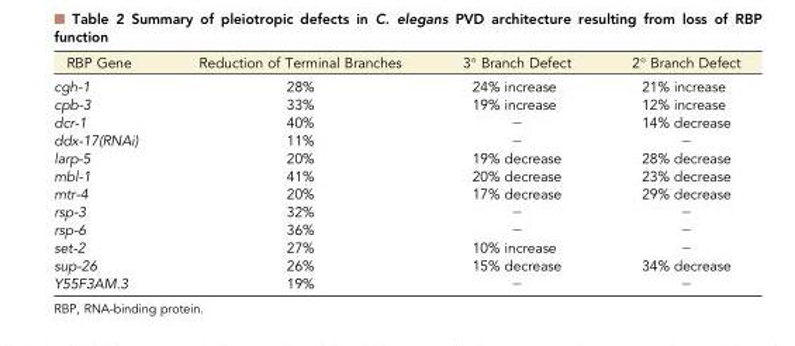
<table><thead><tr><td>RBP Gene</td><td>Reduction of Terminal Branches</td><td>3° Branch Defect</td><td>2° Branch Defect</td></tr></thead><tbody><tr><td>cgh-1</td><td>28%</td><td>24% increase</td><td>21% increase</td></tr><tr><td>cpb-3</td><td>33%</td><td>19% increase</td><td>12% increase</td></tr><tr><td>dcr-1</td><td>40%</td><td>−</td><td>14% decrease</td></tr><tr><td>ddx-17(RNAi)</td><td>11%</td><td>−</td><td>−</td></tr><tr><td>larp-5</td><td>20%</td><td>19% decrease</td><td>28% decrease</td></tr><tr><td>mbl-1</td><td>41%</td><td>20% decrease</td><td>23% decrease</td></tr><tr><td>mtr-4</td><td>20%</td><td>17% decrease</td><td>29% decrease</td></tr><tr><td>rsp-3</td><td>32%</td><td>−</td><td>−</td></tr><tr><td>rsp-6</td><td>36%</td><td>−</td><td>−</td></tr><tr><td>set-2</td><td>27%</td><td>10% increase</td><td>−</td></tr><tr><td>sup-26</td><td>26%</td><td>15% decrease</td><td>34% decrease</td></tr><tr><td>Y55F3AM.3</td><td>19%</td><td>−</td><td>−</td></tr></tbody></table>